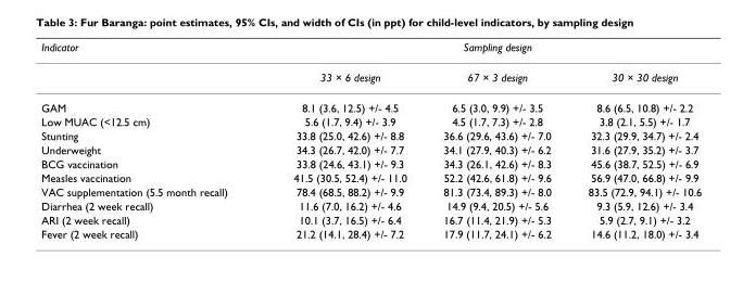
<table><thead><tr><td rowspan="2">Indicator</td><td colspan="3">Sampling design</td></tr><tr><td>33 × 6 design</td><td>67 × 3 design</td><td>30 × 30 design</td></tr></thead><tbody><tr><td>GAM</td><td>8.1 (3.6, 12.5) +/- 4.5</td><td>6.5 (3.0, 9.9) +/- 3.5</td><td>8.6 (6.5, 10.8) +/- 2.2</td></tr><tr><td>Low MUAC (&lt;12.5 cm)</td><td>5.6 (1.7, 9.4) +/- 3.9</td><td>4.5 (1.7, 7.3) +/- 2.8</td><td>3.8 (2.1, 5.5) +/- 1.7</td></tr><tr><td>Stunting</td><td>33.8 (25.0, 42.6) +/- 8.8</td><td>36.6 (29.6, 43.6) +/- 7.0</td><td>32.3 (29.9, 34.7) +/- 2.4</td></tr><tr><td>Underweight</td><td>34.3 (26.7, 42.0) +/- 7.7</td><td>34.1 (27.9, 40.3) +/- 6.2</td><td>31.6 (27.9, 35.2) +/- 3.7</td></tr><tr><td>BCG vaccination</td><td>33.8 (24.6, 43.1) +/- 9.3</td><td>34.3 (26.1, 42.6) +/- 8.3</td><td>45.6 (38.7, 52.5) +/- 6.9</td></tr><tr><td>Measles vaccination</td><td>41.5 (30.5, 52.4) +/- 11.0</td><td>52.2 (42.6, 61.8) +/- 9.6</td><td>56.9 (47.0, 66.8) +/- 9.9</td></tr><tr><td>VAC supplementation (5.5 month recall)</td><td>78.4 (68.5, 88.2) +/- 9.9</td><td>81.3 (73.4, 89.3) +/- 8.0</td><td>83.5 (72.9, 94.1) +/- 10.6</td></tr><tr><td>Diarrhea (2 week recall)</td><td>11.6 (7.0, 16.2) +/- 4.6</td><td>14.9 (9.4, 20.5) +/- 5.6</td><td>9.3 (5.9, 12.6) +/- 3.4</td></tr><tr><td>ARI (2 week recall)</td><td>10.1 (3.7, 16.5) +/- 6.4</td><td>16.7 (11.4, 21.9) +/- 5.3</td><td>5.9 (2.7, 9.1) +/- 3.2</td></tr><tr><td>Fever (2 week recall)</td><td>21.2 (14.1, 28.4) +/- 7.2</td><td>17.9 (11.7, 24.1) +/- 6.2</td><td>14.6 (11.2, 18.0) +/- 3.4</td></tr></tbody></table>